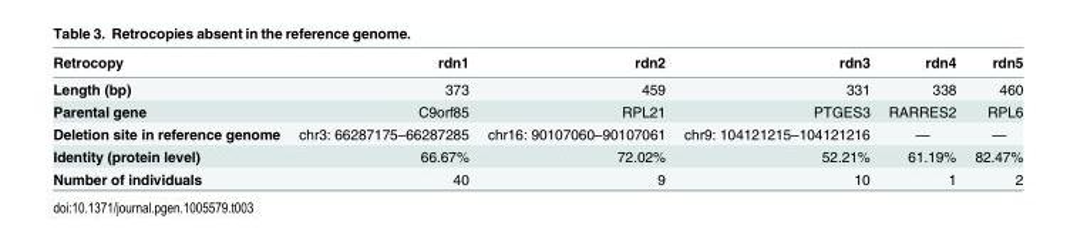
<table><thead><tr><td>Retrocopy</td><td>rdn1</td><td>rdn2</td><td>rdn3</td><td>rdn4</td><td>rdn5</td></tr></thead><tbody><tr><td>Length (bp)</td><td>373</td><td>459</td><td>331</td><td>338</td><td>460</td></tr><tr><td>Parental gene</td><td>C9orf85</td><td>RPL21</td><td>PTGES3</td><td>RARRES2</td><td>RPL6</td></tr><tr><td>Deletion site in reference genome</td><td>chr3: 66287175–66287285</td><td>chr16: 90107060–90107061</td><td>chr9: 104121215–104121216</td><td>—</td><td>—</td></tr><tr><td>Identity (protein level)</td><td>66.67%</td><td>72.02%</td><td>52.21%</td><td>61.19%</td><td>82.47%</td></tr><tr><td>Number of individuals</td><td>40</td><td>9</td><td>10</td><td>1</td><td>2</td></tr></tbody></table>